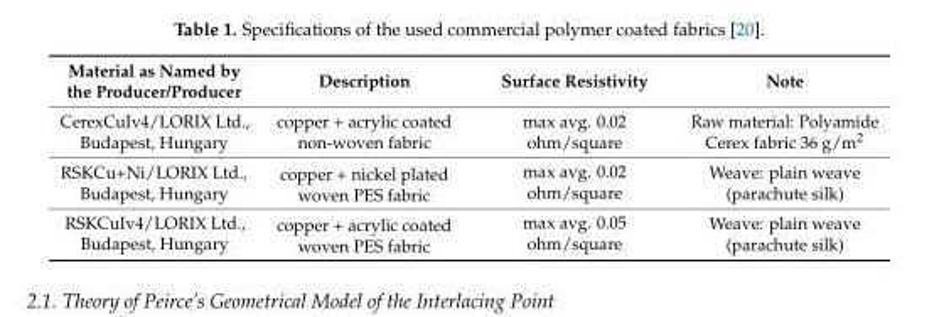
<table><thead><tr><td>Material as Named by the Producer/Producer</td><td>Description</td><td>Surface Resistivity</td><td>Note</td></tr></thead><tbody><tr><td>CerexCuIv4/LORIX Ltd., Budapest, Hungary</td><td>copper + acrylic coated non-woven fabric</td><td>max avg. 0.02 ohm/square</td><td>Raw material: Polyamide Cerex fabric 36 g/m<sup>2</sup></td></tr><tr><td>RSKCu+Ni/LORIX Ltd.,</td><td rowspan="2">copper + nickel plated woven PES fabric</td><td rowspan="2">max avg. 0.02 ohm/square</td><td>Weave: plain weave</td></tr><tr><td>Budapest, Hungary</td><td>(parachute silk)</td></tr><tr><td rowspan="2">RSKCuIv4/LORIX Ltd., Budapest, Hungary</td><td rowspan="2">copper + acrylic coated woven PES fabric</td><td rowspan="2">max avg. 0.05 ohm/square</td><td>Weave: plain weave</td></tr><tr><td>(parachute silk)</td></tr></tbody></table>